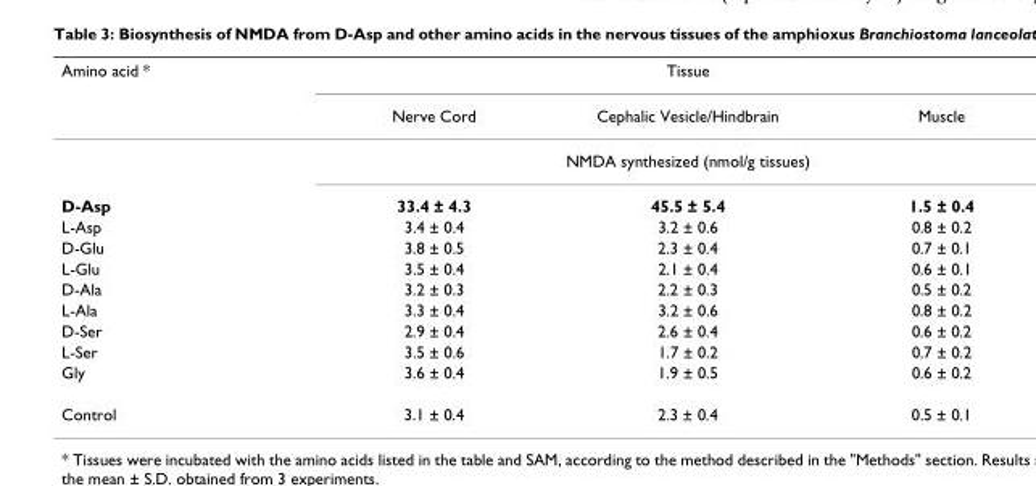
<table><thead><tr><td rowspan="2">Amino acid *</td><td colspan="3">Tissue</td></tr><tr><td>Nerve Cord</td><td>Cephalic Vesicle/Hindbrain</td><td>Muscle</td></tr></thead><tbody><tr><td></td><td colspan="3">NMDA synthesized (nmol/g tissues)</td></tr><tr><td>D-Asp</td><td>33.4 ± 4.3</td><td>45.5 ± 5.4</td><td>1.5 ± 0.4</td></tr><tr><td>L-Asp</td><td>3.4 ± 0.4</td><td>3.2 ± 0.6</td><td>0.8 ± 0.2</td></tr><tr><td>D-Glu</td><td>3.8 ± 0.5</td><td>2.3 ± 0.4</td><td>0.7 ± 0.1</td></tr><tr><td>L-Glu</td><td>3.5 ± 0.4</td><td>2.1 ± 0.4</td><td>0.6 ± 0.1</td></tr><tr><td>D-Ala</td><td>3.2 ± 0.3</td><td>2.2 ± 0.3</td><td>0.5 ± 0.2</td></tr><tr><td>L-Ala</td><td>3.3 ± 0.4</td><td>3.2 ± 0.6</td><td>0.8 ± 0.2</td></tr><tr><td>D-Ser</td><td>2.9 ± 0.4</td><td>2.6 ± 0.4</td><td>0.6 ± 0.2</td></tr><tr><td>L-Ser</td><td>3.5 ± 0.6</td><td>1.7 ± 0.2</td><td>0.7 ± 0.2</td></tr><tr><td>Gly</td><td>3.6 ± 0.4</td><td>1.9 ± 0.5</td><td>0.6 ± 0.2</td></tr><tr><td>Control</td><td>3.1 ± 0.4</td><td>2.3 ± 0.4</td><td>0.5 ± 0.1</td></tr></tbody></table>